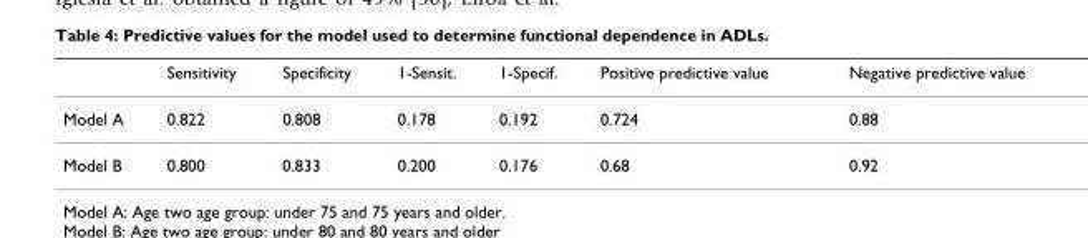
<table><thead><tr><td></td><td>Sensitivity</td><td>Specificity</td><td>1-Sensit.</td><td>1-Specif.</td><td>Positive predictive value</td><td>Negative predictive value</td></tr></thead><tbody><tr><td>Model A</td><td>0.822</td><td>0.808</td><td>0.178</td><td>0.192</td><td>0.724</td><td>0.88</td></tr><tr><td>Model B</td><td>0.800</td><td>0.833</td><td>0.200</td><td>0.176</td><td>0.68</td><td>0.92</td></tr></tbody></table>